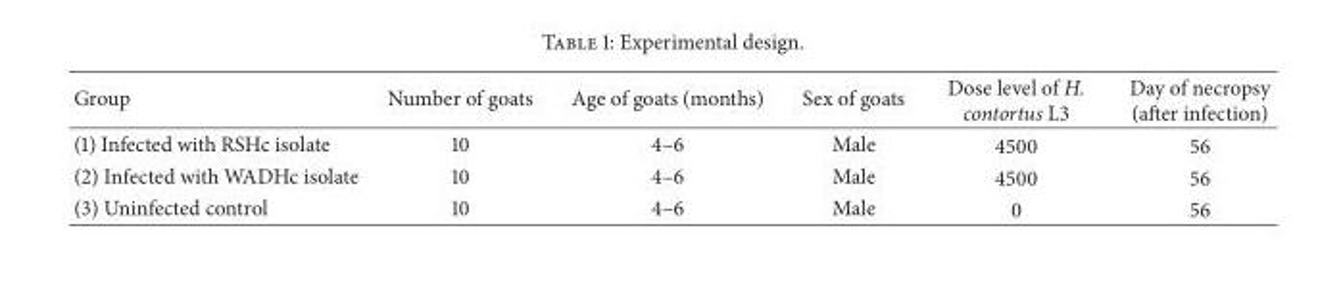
<table><thead><tr><td>Group</td><td>Number of goats</td><td>Age of goats (months)</td><td>Sex of goats</td><td>Dose level of H. contortus L3</td><td>Day of necropsy (after infection)</td></tr></thead><tbody><tr><td>(1) Infected with RSHc isolate</td><td>10</td><td>4–6</td><td>Male</td><td>4500</td><td>56</td></tr><tr><td>(2) Infected with WADHc isolate</td><td>10</td><td>4–6</td><td>Male</td><td>4500</td><td>56</td></tr><tr><td>(3) Uninfected control</td><td>10</td><td>4–6</td><td>Male</td><td>0</td><td>56</td></tr></tbody></table>